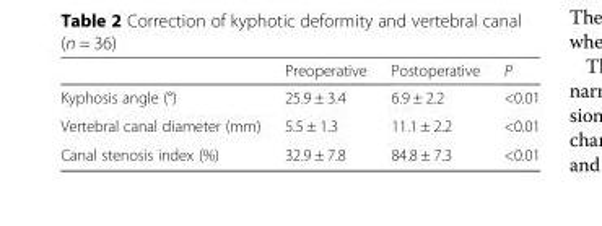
<table><thead><tr><td></td><td>Preoperative</td><td>Postoperative</td><td>P</td></tr></thead><tbody><tr><td>Kyphosis angle (°)</td><td>25.9 ± 3.4</td><td>6.9 ± 2.2</td><td>&lt;0.01</td></tr><tr><td>Vertebral canal diameter (mm)</td><td>5.5 ± 1.3</td><td>11.1 ± 2.2</td><td>&lt;0.01</td></tr><tr><td>Canal stenosis index (%)</td><td>32.9 ± 7.8</td><td>84.8 ± 7.3</td><td>&lt;0.01</td></tr></tbody></table>